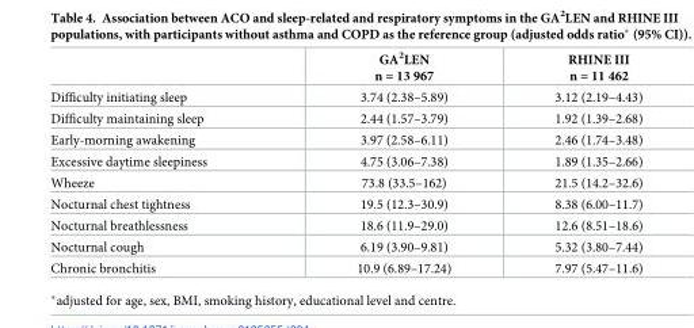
<table><thead><tr><td></td><td>GA<sup>2</sup>LEN n = 13 967</td><td>RHINE III n = 11 462</td></tr></thead><tbody><tr><td>Difficulty initiating sleep</td><td>3.74 (2.38–5.89)</td><td>3.12 (2.19–4.43)</td></tr><tr><td>Difficulty maintaining sleep</td><td>2.44 (1.57–3.79)</td><td>1.92 (1.39–2.68)</td></tr><tr><td>Early-morning awakening</td><td>3.97 (2.58–6.11)</td><td>2.46 (1.74–3.48)</td></tr><tr><td>Excessive daytime sleepiness</td><td>4.75 (3.06–7.38)</td><td>1.89 (1.35–2.66)</td></tr><tr><td>Wheeze</td><td>73.8 (33.5–162)</td><td>21.5 (14.2–32.6)</td></tr><tr><td>Nocturnal chest tightness</td><td>19.5 (12.3–30.9)</td><td>8.38 (6.00–11.7)</td></tr><tr><td>Nocturnal breathlessness</td><td>18.6 (11.9–29.0)</td><td>12.6 (8.51–18.6)</td></tr><tr><td>Nocturnal cough</td><td>6.19 (3.90–9.81)</td><td>5.32 (3.80–7.44)</td></tr><tr><td>Chronic bronchitis</td><td>10.9 (6.89–17.24)</td><td>7.97 (5.47–11.6)</td></tr></tbody></table>